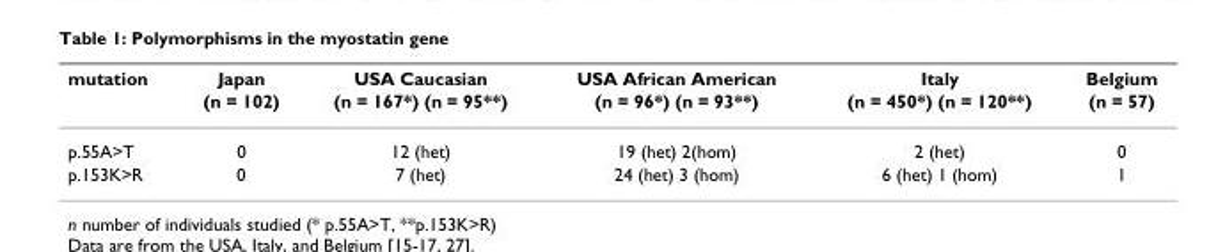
<table><thead><tr><td rowspan="2">mutation</td><td rowspan="2">Japan (n = 102)</td><td rowspan="2">USA Caucasian (n = 167*) (n = 95**)</td><td rowspan="2">USA African American (n = 96*) (n = 93**)</td><td rowspan="2">Italy (n = 450*) (n = 120**)</td><td rowspan="2">Belgium (n = 57)</td></tr><tr></tr></thead><tbody><tr><td>p.55A&gt;T</td><td>0</td><td>12 (het)</td><td>19 (het) 2(hom)</td><td>2 (het)</td><td>0</td></tr><tr><td>p.153K&gt;R</td><td>0</td><td>7 (het)</td><td>24 (het) 3 (hom)</td><td>6 (het) 1 (hom)</td><td>1</td></tr></tbody></table>